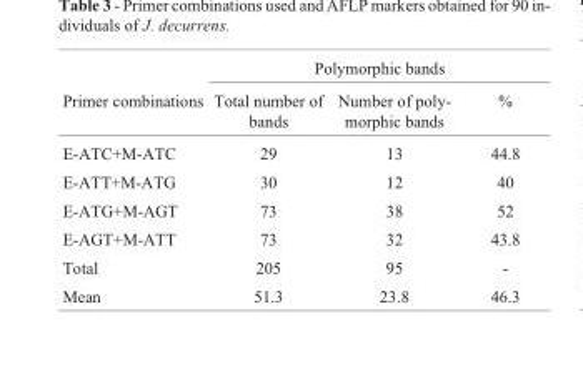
<table><thead><tr><td rowspan="2">Primer combinations</td><td colspan="3">Polymorphic bands</td></tr><tr><td>Total number of bands</td><td>Number of poly- morphic bands</td><td>%</td></tr></thead><tbody><tr><td>E-ATC+M-ATC</td><td>29</td><td>13</td><td>44.8</td></tr><tr><td>E-ATT+M-ATG</td><td>30</td><td>12</td><td>40</td></tr><tr><td>E-ATG+M-AGT</td><td>73</td><td>38</td><td>52</td></tr><tr><td>E-AGT+M-ATT</td><td>73</td><td>32</td><td>43.8</td></tr><tr><td>Total</td><td>205</td><td>95</td><td>-</td></tr><tr><td>Mean</td><td>51.3</td><td>23.8</td><td>46.3</td></tr></tbody></table>